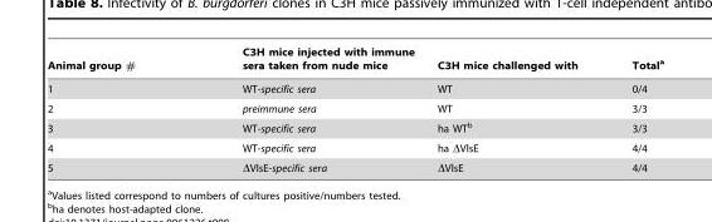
<table><thead><tr><td>Animal group #</td><td>C3H mice injected with immune sera taken from nude mice</td><td>C3H mice challenged with</td><td>Total<sup>a</sup></td></tr></thead><tbody><tr><td>1</td><td>WT-specific sera</td><td>WT</td><td>0/4</td></tr><tr><td>2</td><td>preimmune sera</td><td>WT</td><td>3/3</td></tr><tr><td>3</td><td>WT-specific sera</td><td>ha WT<sup>b</sup></td><td>3/3</td></tr><tr><td>4</td><td>WT-specific sera</td><td>ha ΔVlsE</td><td>4/4</td></tr><tr><td>5</td><td>ΔVlsE-specific sera</td><td>ΔVlsE</td><td>4/4</td></tr></tbody></table>